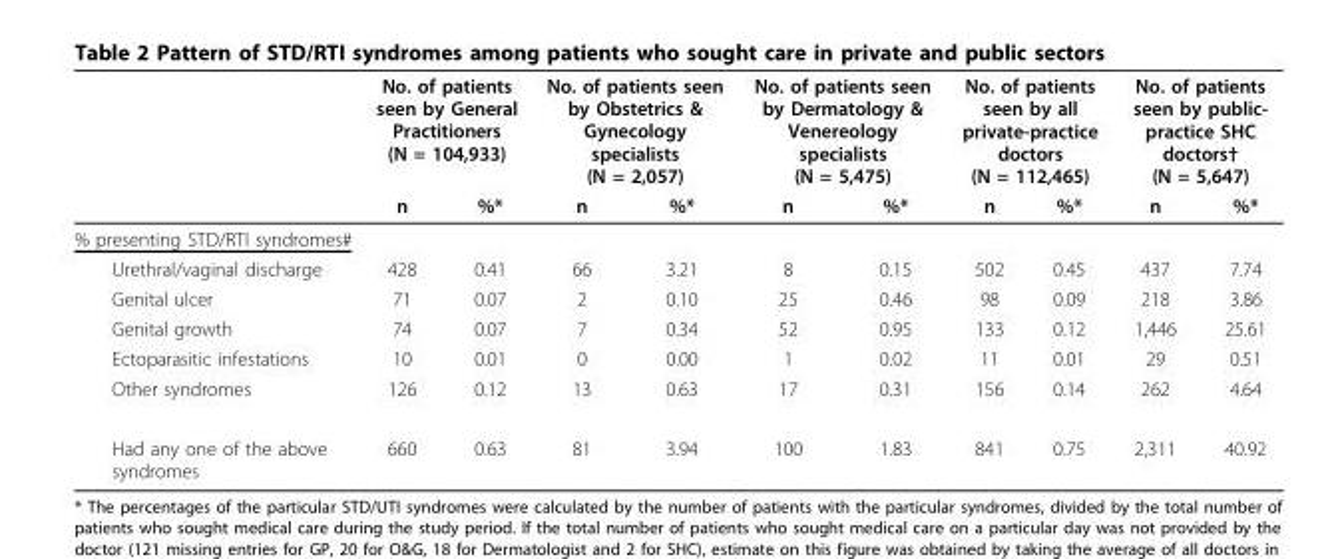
<table><thead><tr><td rowspan="2"></td><td colspan="2">No. of patients seen by General Practitioners (N = 104,933)</td><td colspan="2">No. of patients seen by Obstetrics &amp; Gynecology specialists (N = 2,057)</td><td colspan="2">No. of patients seen by Dermatology &amp; Venereology specialists (N = 5,475)</td><td colspan="2">No. of patients seen by all private-practice doctors (N = 112,465)</td><td colspan="2">No. of patients seen by public- practice SHC doctors† (N = 5,647)</td></tr><tr><td>n</td><td>%*</td><td>n</td><td>%*</td><td>n</td><td>%*</td><td>n</td><td>%*</td><td>n</td><td>%*</td></tr></thead><tbody><tr><td colspan="11">% presenting STD/RTI syndromes#</td></tr><tr><td>Urethral/vaginal discharge</td><td>428</td><td>0.41</td><td>66</td><td>3.21</td><td>8</td><td>0.15</td><td>502</td><td>0.45</td><td>437</td><td>7.74</td></tr><tr><td>Genital ulcer</td><td>71</td><td>0.07</td><td>2</td><td>0.10</td><td>25</td><td>0.46</td><td>98</td><td>0.09</td><td>218</td><td>3.86</td></tr><tr><td>Genital growth</td><td>74</td><td>0.07</td><td>7</td><td>0.34</td><td>52</td><td>0.95</td><td>133</td><td>0.12</td><td>1,446</td><td>25.61</td></tr><tr><td>Ectoparasitic infestations</td><td>10</td><td>0.01</td><td>0</td><td>0.00</td><td>1</td><td>0.02</td><td>11</td><td>0.01</td><td>29</td><td>0.51</td></tr><tr><td>Other syndromes</td><td>126</td><td>0.12</td><td>13</td><td>0.63</td><td>17</td><td>0.31</td><td>156</td><td>0.14</td><td>262</td><td>4.64</td></tr><tr><td>Had any one of the above syndromes</td><td>660</td><td>0.63</td><td>81</td><td>3.94</td><td>100</td><td>1.83</td><td>841</td><td>0.75</td><td>2,311</td><td>40.92</td></tr></tbody></table>